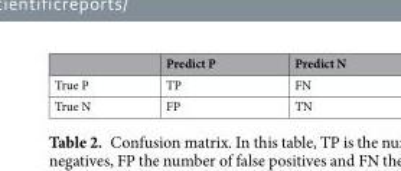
<table><thead><tr><td></td><td>Predict P</td><td>Predict N</td></tr></thead><tbody><tr><td>True P</td><td>TP</td><td>FN</td></tr><tr><td>True N</td><td>FP</td><td>TN</td></tr></tbody></table>